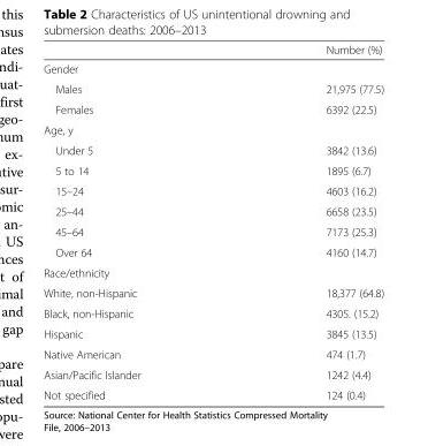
<table><thead><tr><td></td><td>Number (%)</td></tr></thead><tbody><tr><td colspan="2">Gender</td></tr><tr><td>Males</td><td>21,975 (77.5)</td></tr><tr><td>Females</td><td>6392 (22.5)</td></tr><tr><td colspan="2">Age, y</td></tr><tr><td>Under 5</td><td>3842 (13.6)</td></tr><tr><td>5 to 14</td><td>1895 (6.7)</td></tr><tr><td>15–24</td><td>4603 (16.2)</td></tr><tr><td>25–44</td><td>6658 (23.5)</td></tr><tr><td>45–64</td><td>7173 (25.3)</td></tr><tr><td>Over 64</td><td>4160 (14.7)</td></tr><tr><td colspan="2">Race/ethnicity</td></tr><tr><td>White, non-Hispanic</td><td>18,377 (64.8)</td></tr><tr><td>Black, non-Hispanic</td><td>4305. (15.2)</td></tr><tr><td>Hispanic</td><td>3845 (13.5)</td></tr><tr><td>Native American</td><td>474 (1.7)</td></tr><tr><td>Asian/Pacific Islander</td><td>1242 (4.4)</td></tr><tr><td>Not specified</td><td>124 (0.4)</td></tr></tbody></table>